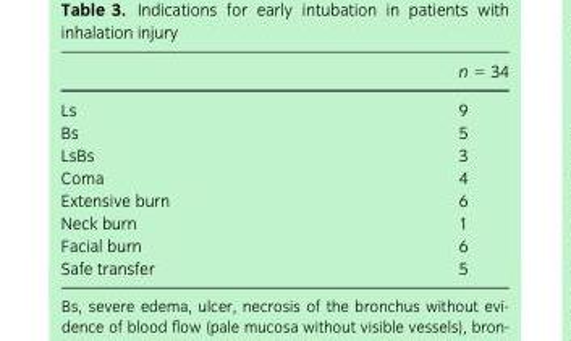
<table><thead><tr><td></td><td>n = 34</td></tr></thead><tbody><tr><td>Ls</td><td>9</td></tr><tr><td>Bs</td><td>5</td></tr><tr><td>LsBs</td><td>3</td></tr><tr><td>Coma</td><td>4</td></tr><tr><td>Extensive burn</td><td>6</td></tr><tr><td>Neck burn</td><td>1</td></tr><tr><td>Facial burn</td><td>6</td></tr><tr><td>Safe transfer</td><td>5</td></tr></tbody></table>